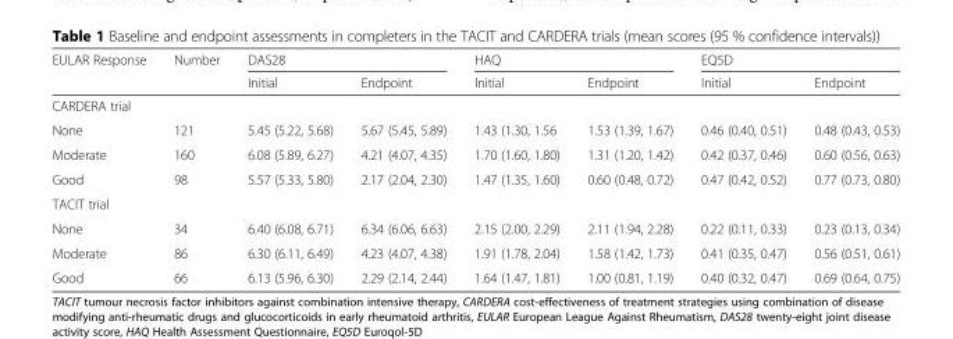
<table><thead><tr><td rowspan="2">EULAR Response</td><td rowspan="2">Number</td><td colspan="2">DAS28</td><td colspan="2">HAQ</td><td colspan="2">EQ5D</td></tr><tr><td>Initial</td><td>Endpoint</td><td>Initial</td><td>Endpoint</td><td>Initial</td><td>Endpoint</td></tr></thead><tbody><tr><td colspan="8">CARDERA trial</td></tr><tr><td>None</td><td>121</td><td>5.45 (5.22, 5.68)</td><td>5.67 (5.45, 5.89)</td><td>1.43 (1.30, 1.56</td><td>1.53 (1.39, 1.67)</td><td>0.46 (0.40, 0.51)</td><td>0.48 (0.43, 0.53)</td></tr><tr><td>Moderate</td><td>160</td><td>6.08 (5.89, 6.27)</td><td>4.21 (4.07, 4.35)</td><td>1.70 (1.60, 1.80)</td><td>1.31 (1.20, 1.42)</td><td>0.42 (0.37, 0.46)</td><td>0.60 (0.56, 0.63)</td></tr><tr><td>Good</td><td>98</td><td>5.57 (5.33, 5.80)</td><td>2.17 (2.04, 2.30)</td><td>1.47 (1.35, 1.60)</td><td>0.60 (0.48, 0.72)</td><td>0.47 (0.42, 0.52)</td><td>0.77 (0.73, 0.80)</td></tr><tr><td colspan="8">TACIT trial</td></tr><tr><td>None</td><td>34</td><td>6.40 (6.08, 6.71)</td><td>6.34 (6.06, 6.63)</td><td>2.15 (2.00, 2.29)</td><td>2.11 (1.94, 2.28)</td><td>0.22 (0.11, 0.33)</td><td>0.23 (0.13, 0.34)</td></tr><tr><td>Moderate</td><td>86</td><td>6.30 (6.11, 6.49)</td><td>4.23 (4.07, 4.38)</td><td>1.91 (1.78, 2.04)</td><td>1.58 (1.42, 1.73)</td><td>0.41 (0.35, 0.47)</td><td>0.56 (0.51, 0.61)</td></tr><tr><td>Good</td><td>66</td><td>6.13 (5.96, 6.30)</td><td>2.29 (2.14, 2.44)</td><td>1.64 (1.47, 1.81)</td><td>1.00 (0.81, 1.19)</td><td>0.40 (0.32, 0.47)</td><td>0.69 (0.64, 0.75)</td></tr></tbody></table>